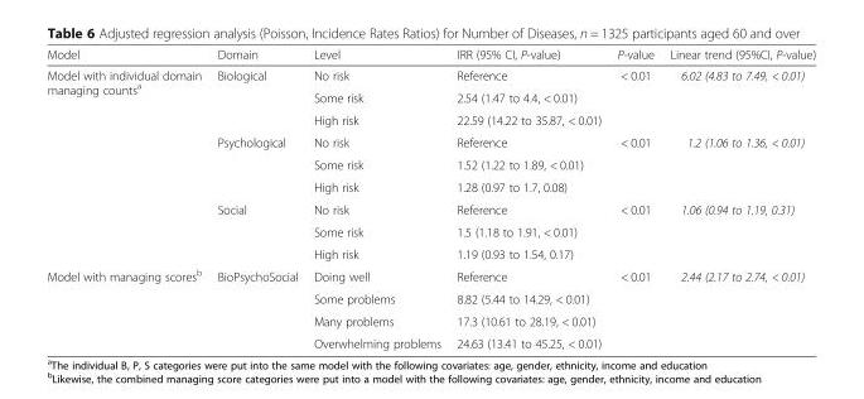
<table><thead><tr><td>Model</td><td>Domain</td><td>Level</td><td>IRR (95% CI, P-value)</td><td>P-value</td><td>Linear trend (95%CI, P-value)</td></tr></thead><tbody><tr><td rowspan="9">Model with individual domain managing counts<sup>a</sup></td><td rowspan="3">Biological</td><td>No risk</td><td>Reference</td><td rowspan="3">&lt; 0.01</td><td rowspan="3">6.02 (4.83 to 7.49, &lt; 0.01)</td></tr><tr><td>Some risk</td><td>2.54 (1.47 to 4.4, &lt; 0.01)</td></tr><tr><td>High risk</td><td>22.59 (14.22 to 35.87, &lt; 0.01)</td></tr><tr><td rowspan="3">Psychological</td><td>No risk</td><td>Reference</td><td rowspan="3">&lt; 0.01</td><td rowspan="3">1.2 (1.06 to 1.36, &lt; 0.01)</td></tr><tr><td>Some risk</td><td>1.52 (1.22 to 1.89, &lt; 0.01)</td></tr><tr><td>High risk</td><td>1.28 (0.97 to 1.7, 0.08)</td></tr><tr><td rowspan="3">Social</td><td>No risk</td><td>Reference</td><td rowspan="3">&lt; 0.01</td><td rowspan="3">1.06 (0.94 to 1.19, 0.31)</td></tr><tr><td>Some risk</td><td>1.5 (1.18 to 1.91, &lt; 0.01)</td></tr><tr><td>High risk</td><td>1.19 (0.93 to 1.54, 0.17)</td></tr><tr><td rowspan="4">Model with managing scores<sup>b</sup></td><td rowspan="4">BioPsychoSocial</td><td>Doing well</td><td>Reference</td><td rowspan="4">&lt; 0.01</td><td rowspan="4">2.44 (2.17 to 2.74, &lt; 0.01)</td></tr><tr><td>Some problems</td><td>8.82 (5.44 to 14.29, &lt; 0.01)</td></tr><tr><td>Many problems</td><td>17.3 (10.61 to 28.19, &lt; 0.01)</td></tr><tr><td>Overwhelming problems</td><td>24.63 (13.41 to 45.25, &lt; 0.01)</td></tr></tbody></table>